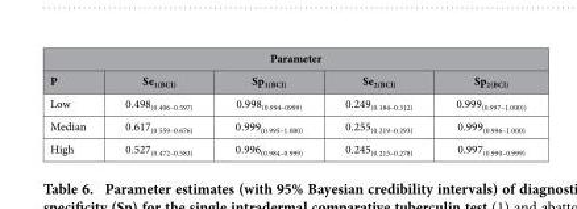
<table><thead><tr><td colspan="5">Parameter</td></tr><tr><td>P</td><td>Se<sub>1(BCI)</sub></td><td>Sp<sub>1(BCI)</sub></td><td>Se<sub>2(BCI)</sub></td><td>Sp<sub>2(BCI)</sub></td></tr></thead><tbody><tr><td>Low</td><td>0.498<sub>(0.406–0.597)</sub></td><td>0.998<sub>(0.994–0999)</sub></td><td>0.249<sub>(0.184–0.312)</sub></td><td>0.999<sub>(0.997–1.000))</sub></td></tr><tr><td>Median</td><td>0.617<sub>(0.559–0.676)</sub></td><td>0.999<sub>(0.995–1.000)</sub></td><td>0.255<sub>(0.219–0.293)</sub></td><td>0.999<sub>(0.996–1.000)</sub></td></tr><tr><td>High</td><td>0.527<sub>(0.472–0.583)</sub></td><td>0.996<sub>(0.984–0.999)</sub></td><td>0.245<sub>(0.215–0.278)</sub></td><td>0.997<sub>(0.990–0.999)</sub></td></tr></tbody></table>